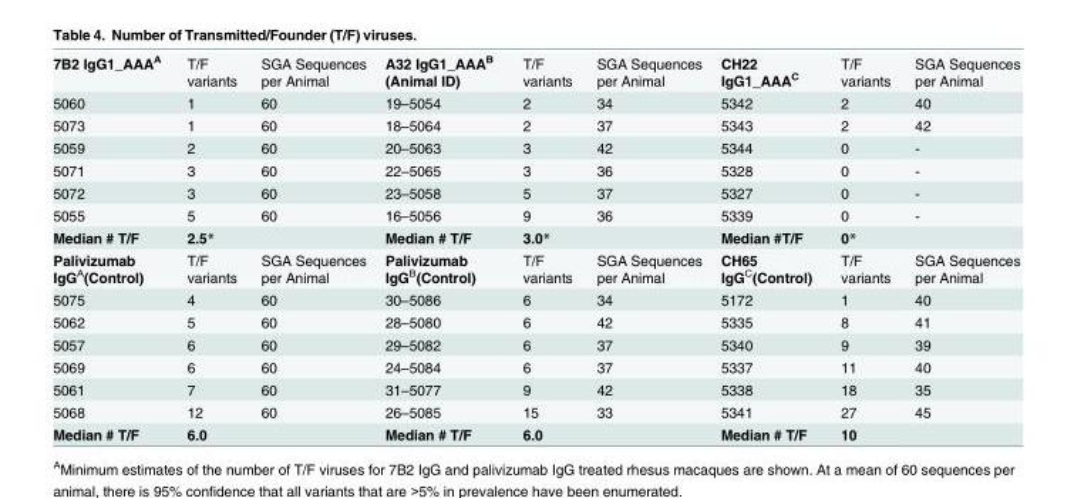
<table><tbody><tr><td>7B2 IgG1_AAA<sup>A</sup></td><td>T/F variants</td><td>SGA Sequences per Animal</td><td>A32 IgG1_AAA<sup>B</sup> (Animal ID)</td><td>T/F variants</td><td>SGA Sequences per Animal</td><td>CH22 IgG1_AAA<sup>C</sup></td><td>T/F variants</td><td>SGA Sequences per Animal</td></tr><tr><td>5060</td><td>1</td><td>60</td><td>19–5054</td><td>2</td><td>34</td><td>5342</td><td>2</td><td>40</td></tr><tr><td>5073</td><td>1</td><td>60</td><td>18–5064</td><td>2</td><td>37</td><td>5343</td><td>2</td><td>42</td></tr><tr><td>5059</td><td>2</td><td>60</td><td>20–5063</td><td>3</td><td>42</td><td>5344</td><td>0</td><td>-</td></tr><tr><td>5071</td><td>3</td><td>60</td><td>22–5065</td><td>3</td><td>36</td><td>5328</td><td>0</td><td>-</td></tr><tr><td>5072</td><td>3</td><td>60</td><td>23–5058</td><td>5</td><td>37</td><td>5327</td><td>0</td><td>-</td></tr><tr><td>5055</td><td>5</td><td>60</td><td>16–5056</td><td>9</td><td>36</td><td>5339</td><td>0</td><td>-</td></tr><tr><td>Median # T/F</td><td>2.5*</td><td></td><td>Median # T/F</td><td>3.0*</td><td></td><td>Median #T/F</td><td>0*</td><td></td></tr><tr><td>Palivizumab IgG<sup>A</sup>(Control)</td><td>T/F variants</td><td>SGA Sequences per Animal</td><td>Palivizumab IgG<sup>B</sup>(Control)</td><td>T/F variants</td><td>SGA Sequences per Animal</td><td>CH65 IgG<sup>C</sup>(Control)</td><td>T/F variants</td><td>SGA Sequences per Animal</td></tr><tr><td>5075</td><td>4</td><td>60</td><td>30–5086</td><td>6</td><td>34</td><td>5172</td><td>1</td><td>40</td></tr><tr><td>5062</td><td>5</td><td>60</td><td>28–5080</td><td>6</td><td>42</td><td>5335</td><td>8</td><td>41</td></tr><tr><td>5057</td><td>6</td><td>60</td><td>29–5082</td><td>6</td><td>37</td><td>5340</td><td>9</td><td>39</td></tr><tr><td>5069</td><td>6</td><td>60</td><td>24–5084</td><td>6</td><td>37</td><td>5337</td><td>11</td><td>40</td></tr><tr><td>5061</td><td>7</td><td>60</td><td>31–5077</td><td>9</td><td>42</td><td>5338</td><td>18</td><td>35</td></tr><tr><td>5068</td><td>12</td><td>60</td><td>26–5085</td><td>15</td><td>33</td><td>5341</td><td>27</td><td>45</td></tr><tr><td>Median # T/F</td><td>6.0</td><td></td><td>Median # T/F</td><td>6.0</td><td></td><td>Median # T/F</td><td>10</td><td></td></tr></tbody></table>